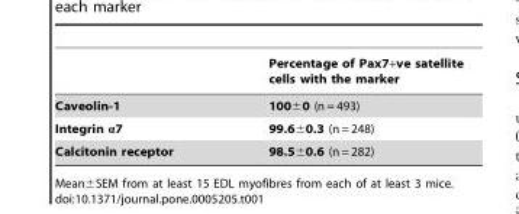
<table><thead><tr><td></td><td>Percentage of Pax7+ve satellite cells with the marker</td></tr></thead><tbody><tr><td>Caveolin-1</td><td>100±0 (n = 493)</td></tr><tr><td>Integrin α7</td><td>99.6±0.3 (n = 248)</td></tr><tr><td>Calcitonin receptor</td><td>98.5±0.6 (n = 282)</td></tr></tbody></table>